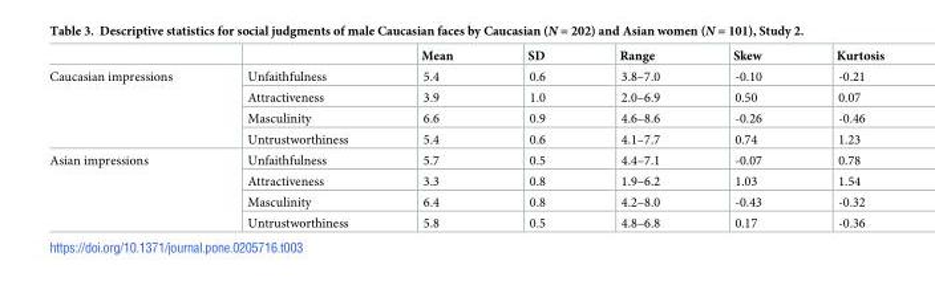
<table><thead><tr><td></td><td></td><td>Mean</td><td>SD</td><td>Range</td><td>Skew</td><td>Kurtosis</td></tr></thead><tbody><tr><td rowspan="4">Caucasian impressions</td><td>Unfaithfulness</td><td>5.4</td><td>0.6</td><td>3.8–7.0</td><td>-0.10</td><td>-0.21</td></tr><tr><td>Attractiveness</td><td>3.9</td><td>1.0</td><td>2.0–6.9</td><td>0.50</td><td>0.07</td></tr><tr><td>Masculinity</td><td>6.6</td><td>0.9</td><td>4.6–8.6</td><td>-0.26</td><td>-0.46</td></tr><tr><td>Untrustworthiness</td><td>5.4</td><td>0.6</td><td>4.1–7.7</td><td>0.74</td><td>1.23</td></tr><tr><td rowspan="4">Asian impressions</td><td>Unfaithfulness</td><td>5.7</td><td>0.5</td><td>4.4–7.1</td><td>-0.07</td><td>0.78</td></tr><tr><td>Attractiveness</td><td>3.3</td><td>0.8</td><td>1.9–6.2</td><td>1.03</td><td>1.54</td></tr><tr><td>Masculinity</td><td>6.4</td><td>0.8</td><td>4.2–8.0</td><td>-0.43</td><td>-0.32</td></tr><tr><td>Untrustworthiness</td><td>5.8</td><td>0.5</td><td>4.8–6.8</td><td>0.17</td><td>-0.36</td></tr></tbody></table>